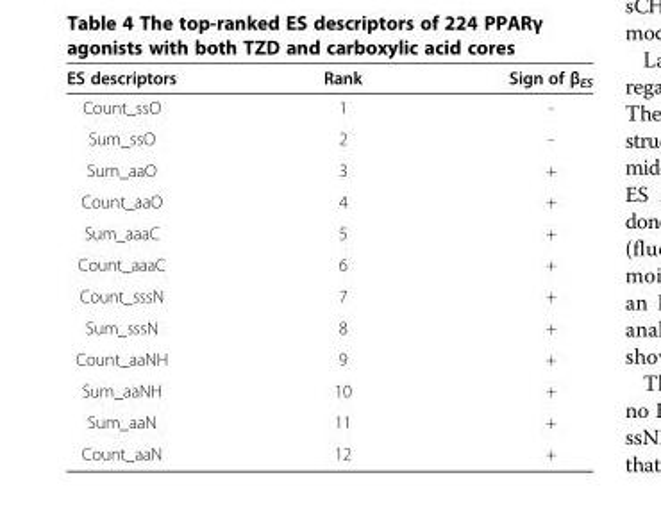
<table><thead><tr><td>ES descriptors</td><td>Rank</td><td>Sign of β<sub>ES</sub></td></tr></thead><tbody><tr><td>Count_ssO</td><td>1</td><td>-</td></tr><tr><td>Sum_ssO</td><td>2</td><td>-</td></tr><tr><td>Sum_aaO</td><td>3</td><td>+</td></tr><tr><td>Count_aaO</td><td>4</td><td>+</td></tr><tr><td>Sum_aaaC</td><td>5</td><td>+</td></tr><tr><td>Count_aaaC</td><td>6</td><td>+</td></tr><tr><td>Count_sssN</td><td>7</td><td>+</td></tr><tr><td>Sum_sssN</td><td>8</td><td>+</td></tr><tr><td>Count_aaNH</td><td>9</td><td>+</td></tr><tr><td>Sum_aaNH</td><td>10</td><td>+</td></tr><tr><td>Sum_aaN</td><td>11</td><td>+</td></tr><tr><td>Count_aaN</td><td>12</td><td>+</td></tr></tbody></table>